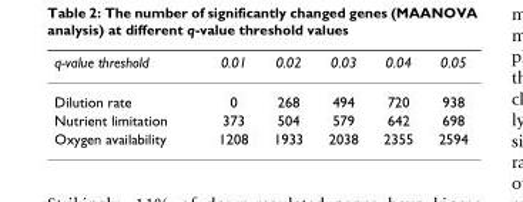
<table><thead><tr><td>q-value threshold</td><td>0.01</td><td>0.02</td><td>0.03</td><td>0.04</td><td>0.05</td></tr></thead><tbody><tr><td>Dilution rate</td><td>0</td><td>268</td><td>494</td><td>720</td><td>938</td></tr><tr><td>Nutrient limitation</td><td>373</td><td>504</td><td>579</td><td>642</td><td>698</td></tr><tr><td>Oxygen availability</td><td>1208</td><td>1933</td><td>2038</td><td>2355</td><td>2594</td></tr></tbody></table>